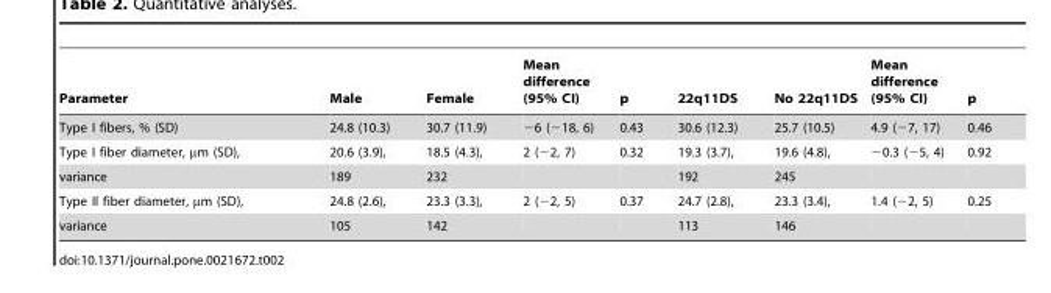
<table><thead><tr><td>Parameter</td><td>Male</td><td>Female</td><td>Mean difference (95% CI)</td><td>p</td><td>22q11DS</td><td>No 22q11DS</td><td>Mean difference (95% CI)</td><td>p</td></tr></thead><tbody><tr><td>Type I fibers, % (SD)</td><td>24.8 (10.3)</td><td>30.7 (11.9)</td><td>−6 (−18, 6)</td><td>0.43</td><td>30.6 (12.3)</td><td>25.7 (10.5)</td><td>4.9 (−7, 17)</td><td>0.46</td></tr><tr><td>Type I fiber diameter, µm (SD),</td><td>20.6 (3.9),</td><td>18.5 (4.3),</td><td>2 (−2, 7)</td><td>0.32</td><td>19.3 (3.7),</td><td>19.6 (4.8),</td><td>−0.3 (−5, 4)</td><td>0.92</td></tr><tr><td>variance</td><td>189</td><td>232</td><td></td><td></td><td>192</td><td>245</td><td></td><td></td></tr><tr><td>Type II fiber diameter, µm (SD),</td><td>24.8 (2.6),</td><td>23.3 (3.3),</td><td>2 (−2, 5)</td><td>0.37</td><td>24.7 (2.8),</td><td>23.3 (3.4),</td><td>1.4 (−2, 5)</td><td>0.25</td></tr><tr><td>variance</td><td>105</td><td>142</td><td></td><td></td><td>113</td><td>146</td><td></td><td></td></tr></tbody></table>